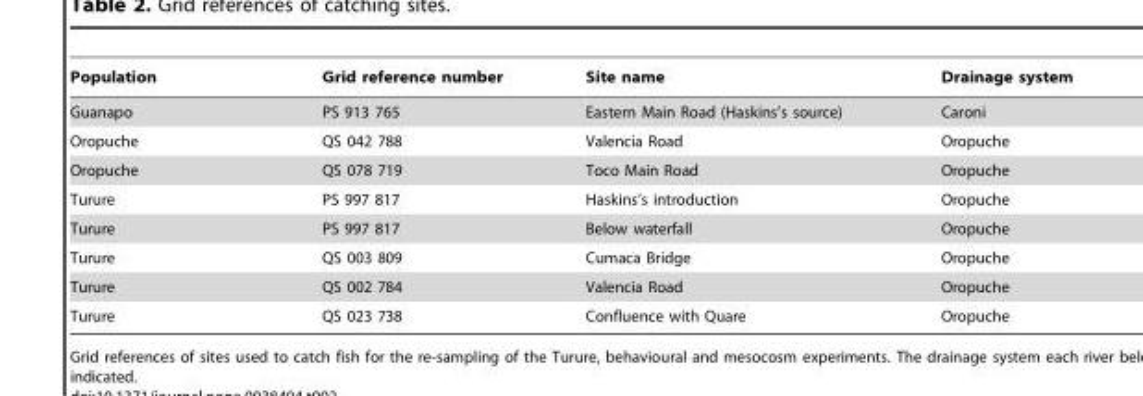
<table><thead><tr><td>Population</td><td>Grid reference number</td><td>Site name</td><td>Drainage system</td></tr></thead><tbody><tr><td>Guanapo</td><td>PS 913 765</td><td>Eastern Main Road (Haskins’s source)</td><td>Caroni</td></tr><tr><td>Oropuche</td><td>QS 042 788</td><td>Valencia Road</td><td>Oropuche</td></tr><tr><td>Oropuche</td><td>QS 078 719</td><td>Toco Main Road</td><td>Oropuche</td></tr><tr><td>Turure</td><td>PS 997 817</td><td>Haskins’s introduction</td><td>Oropuche</td></tr><tr><td>Turure</td><td>PS 997 817</td><td>Below waterfall</td><td>Oropuche</td></tr><tr><td>Turure</td><td>QS 003 809</td><td>Cumaca Bridge</td><td>Oropuche</td></tr><tr><td>Turure</td><td>QS 002 784</td><td>Valencia Road</td><td>Oropuche</td></tr><tr><td>Turure</td><td>QS 023 738</td><td>Confluence with Quare</td><td>Oropuche</td></tr></tbody></table>